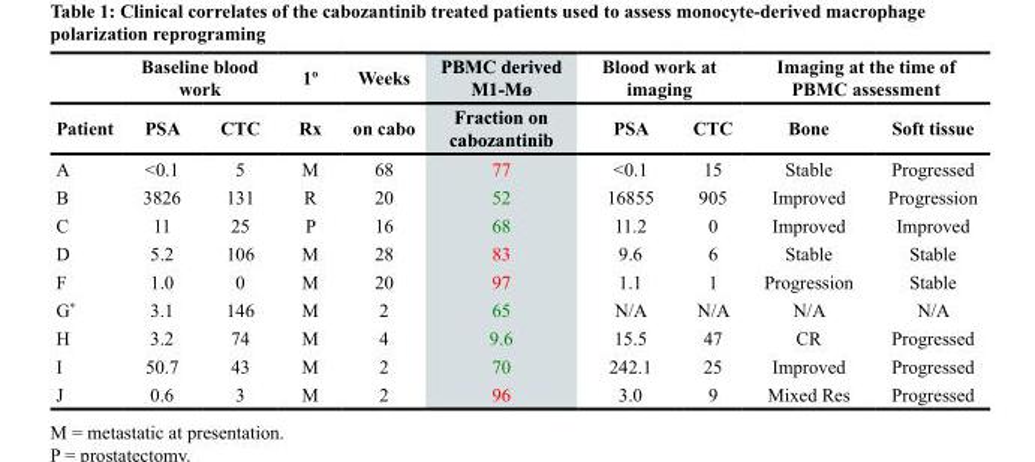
<table><thead><tr><td rowspan="2">Patient</td><td colspan="2">Baseline blood work</td><td rowspan="2">1º Rx</td><td rowspan="2">Weeks on cabo</td><td rowspan="2">PBMC derived M1-Mø Fraction on cabozantinib</td><td colspan="2">Blood work at imaging</td><td colspan="2">Imaging at the time of PBMC assessment</td></tr><tr><td>PSA</td><td>CTC</td><td>PSA</td><td>CTC</td><td>Bone</td><td>Soft tissue</td></tr></thead><tbody><tr><td>A</td><td>&lt;0.1</td><td>5</td><td>M</td><td>68</td><td>77</td><td>&lt;0.1</td><td>15</td><td>Stable</td><td>Progressed</td></tr><tr><td>B</td><td>3826</td><td>131</td><td>R</td><td>20</td><td>52</td><td>16855</td><td>905</td><td>Improved</td><td>Progression</td></tr><tr><td>C</td><td>11</td><td>25</td><td>P</td><td>16</td><td>68</td><td>11.2</td><td>0</td><td>Improved</td><td>Improved</td></tr><tr><td>D</td><td>5.2</td><td>106</td><td>M</td><td>28</td><td>83</td><td>9.6</td><td>6</td><td>Stable</td><td>Stable</td></tr><tr><td>F</td><td>1.0</td><td>0</td><td>M</td><td>20</td><td>97</td><td>1.1</td><td>1</td><td>Progression</td><td>Stable</td></tr><tr><td>G*</td><td>3.1</td><td>146</td><td>M</td><td>2</td><td>65</td><td>N/A</td><td>N/A</td><td>N/A</td><td>N/A</td></tr><tr><td>H</td><td>3.2</td><td>74</td><td>M</td><td>4</td><td>9.6</td><td>15.5</td><td>47</td><td>CR</td><td>Progressed</td></tr><tr><td>I</td><td>50.7</td><td>43</td><td>M</td><td>2</td><td>70</td><td>242.1</td><td>25</td><td>Improved</td><td>Progressed</td></tr><tr><td>J</td><td>0.6</td><td>3</td><td>M</td><td>2</td><td>96</td><td>3.0</td><td>9</td><td>Mixed Res</td><td>Progressed</td></tr></tbody></table>